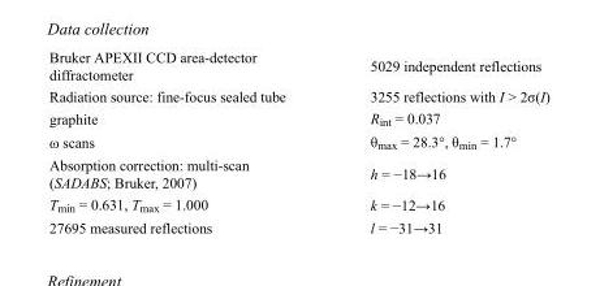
<table><tbody><tr><td>Bruker APEXII CCD area-detector diffractometer</td><td>5029 independent reflections</td></tr><tr><td>Radiation source: fine-focus sealed tube</td><td>3255 reflections with I &gt; 2σ(I)</td></tr><tr><td>graphite</td><td>R<sub>int</sub> = 0.037</td></tr><tr><td>ω scans</td><td>θ<sub>max</sub> = 28.3°, θ<sub>min</sub> = 1.7°</td></tr><tr><td>Absorption correction: multi-scan (SADABS; Bruker, 2007)</td><td>h = −18→16</td></tr><tr><td>T<sub>min</sub> = 0.631, T<sub>max</sub> = 1.000</td><td>k = −12→16</td></tr><tr><td>27695 measured reflections</td><td>l = −31→31</td></tr></tbody></table>